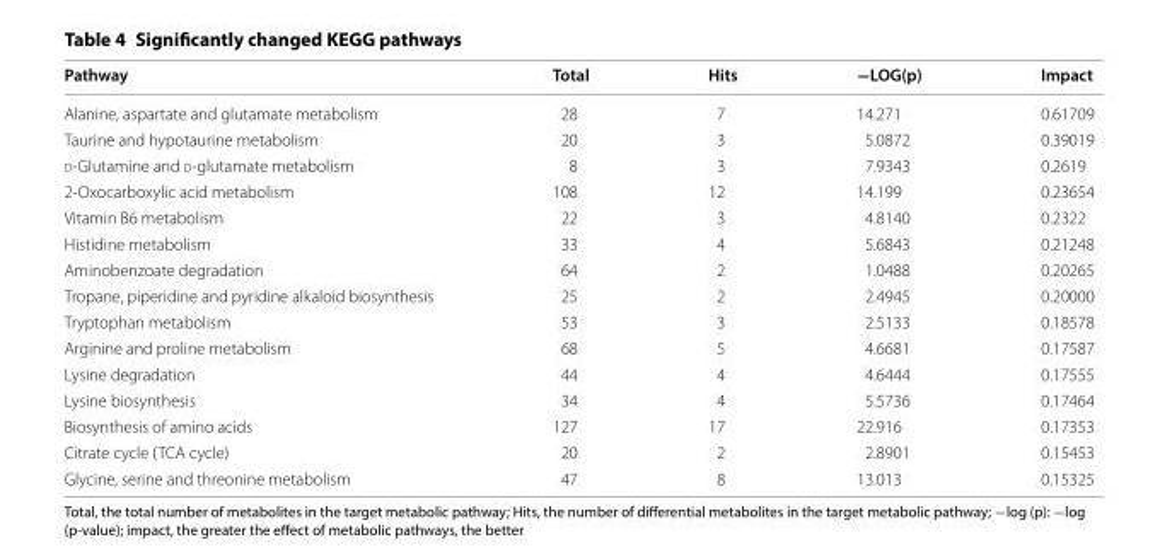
<table><thead><tr><td>Pathway</td><td>Total</td><td>Hits</td><td>−LOG(p)</td><td>Impact</td></tr></thead><tbody><tr><td>Alanine, aspartate and glutamate metabolism</td><td>28</td><td>7</td><td>14.271</td><td>0.61709</td></tr><tr><td>Taurine and hypotaurine metabolism</td><td>20</td><td>3</td><td>5.0872</td><td>0.39019</td></tr><tr><td>d-Glutamine and d-glutamate metabolism</td><td>8</td><td>3</td><td>7.9343</td><td>0.2619</td></tr><tr><td>2-Oxocarboxylic acid metabolism</td><td>108</td><td>12</td><td>14.199</td><td>0.23654</td></tr><tr><td>Vitamin B6 metabolism</td><td>22</td><td>3</td><td>4.8140</td><td>0.2322</td></tr><tr><td>Histidine metabolism</td><td>33</td><td>4</td><td>5.6843</td><td>0.21248</td></tr><tr><td>Aminobenzoate degradation</td><td>64</td><td>2</td><td>1.0488</td><td>0.20265</td></tr><tr><td>Tropane, piperidine and pyridine alkaloid biosynthesis</td><td>25</td><td>2</td><td>2.4945</td><td>0.20000</td></tr><tr><td>Tryptophan metabolism</td><td>53</td><td>3</td><td>2.5133</td><td>0.18578</td></tr><tr><td>Arginine and proline metabolism</td><td>68</td><td>5</td><td>4.6681</td><td>0.17587</td></tr><tr><td>Lysine degradation</td><td>44</td><td>4</td><td>4.6444</td><td>0.17555</td></tr><tr><td>Lysine biosynthesis</td><td>34</td><td>4</td><td>5.5736</td><td>0.17464</td></tr><tr><td>Biosynthesis of amino acids</td><td>127</td><td>17</td><td>22.916</td><td>0.17353</td></tr><tr><td>Citrate cycle (TCA cycle)</td><td>20</td><td>2</td><td>2.8901</td><td>0.15453</td></tr><tr><td>Glycine, serine and threonine metabolism</td><td>47</td><td>8</td><td>13.013</td><td>0.15325</td></tr></tbody></table>